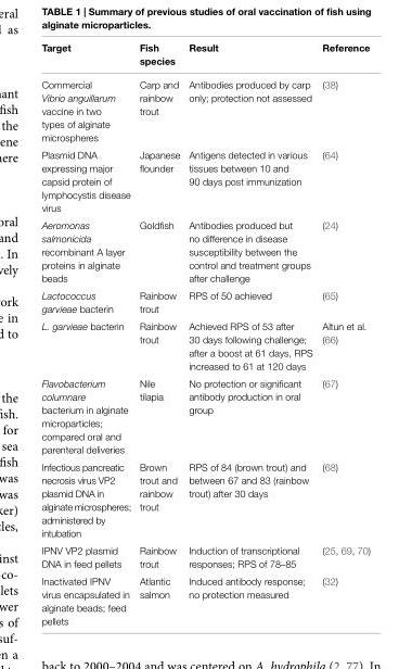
<table><thead><tr><td>Target</td><td>Fish species</td><td>Result</td><td>Reference</td></tr></thead><tbody><tr><td>Commercial Vibrio anguillarum vaccine in two types of alginate microspheres</td><td>Carp and rainbow trout</td><td>Antibodies produced by carp only; protection not assessed</td><td>(38)</td></tr><tr><td>Plasmid DNA expressing major capsid protein of lymphocystis disease virus</td><td>Japanese flounder</td><td>Antigens detected in various tissues between 10 and 90 days post immunization</td><td>(64)</td></tr><tr><td>Aeromonas salmonicida recombinant A layer proteins in alginate beads</td><td>Goldfish</td><td>Antibodies produced but no difference in disease susceptibility between the control and treatment groups after challenge</td><td>(24)</td></tr><tr><td>Lactococcus garvieae bacterin</td><td>Rainbow trout</td><td>RPS of 50 achieved</td><td>(65)</td></tr><tr><td>L. garvieae bacterin</td><td>Rainbow trout</td><td>Achieved RPS of 53 after 30 days following challenge; after a boost at 61 days, RPS increased to 61 at 120 days</td><td>Altun et al. (66)</td></tr><tr><td>Flavobacterium columnare bacterium in alginate microparticles; compared oral and parenteral deliveries</td><td>Nile tilapia</td><td>No protection or significant antibody production in oral group</td><td>(67)</td></tr><tr><td>Infectious pancreatic necrosis virus VP2 plasmid DNA in alginate microspheres; administered by intubation</td><td>Brown trout and rainbow trout</td><td>RPS of 84 (brown trout) and between 67 and 83 (rainbow trout) after 30 days</td><td>(68)</td></tr><tr><td>IPNV VP2 plasmid DNA in feed pellets</td><td>Rainbow trout</td><td>Induction of transcriptional responses; RPS of 78–85</td><td>(25, 69, 70)</td></tr><tr><td>Inactivated IPNV virus encapsulated in alginate beads; feed pellets</td><td>Atlantic salmon</td><td>Induced antibody response; no protection measured</td><td>(32)</td></tr></tbody></table>